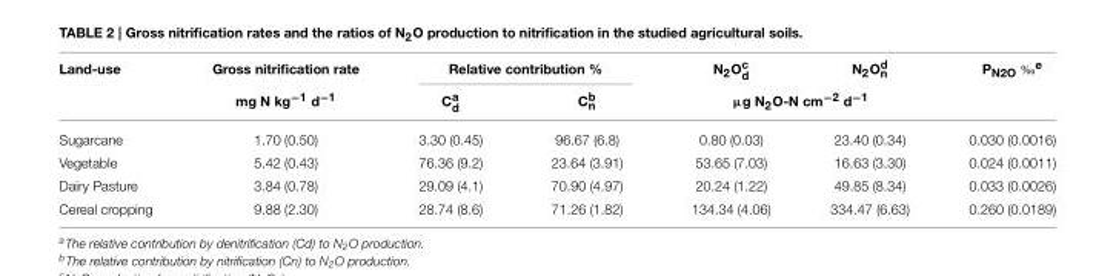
<table><thead><tr><td rowspan="2">Land-use</td><td rowspan="2">Gross nitrification rate mg N kg<sup>−1</sup> d<sup>−1</sup></td><td colspan="2">Relative contribution %</td><td>N<sub>2</sub>O<sup>c</sup> <sub>d</sub></td><td>N<sub>2</sub>O<sup>d</sup><sub>n</sub></td><td rowspan="2">P<sub>N2O</sub> ‰<sup>e</sup></td></tr><tr><td>C<sup>a</sup> <sub>d</sub></td><td>C<sup>b</sup><sub>n</sub></td><td colspan="2">µg N<sub>2</sub>O-N cm<sup>−2</sup> d<sup>−1</sup></td></tr></thead><tbody><tr><td>Sugarcane</td><td>1.70 (0.50)</td><td>3.30 (0.45)</td><td>96.67 (6.8)</td><td>0.80 (0.03)</td><td>23.40 (0.34)</td><td>0.030 (0.0016)</td></tr><tr><td>Vegetable</td><td>5.42 (0.43)</td><td>76.36 (9.2)</td><td>23.64 (3.91)</td><td>53.65 (7.03)</td><td>16.63 (3.30)</td><td>0.024 (0.0011)</td></tr><tr><td>Dairy Pasture</td><td>3.84 (0.78)</td><td>29.09 (4.1)</td><td>70.90 (4.97)</td><td>20.24 (1.22)</td><td>49.85 (8.34)</td><td>0.033 (0.0026)</td></tr><tr><td>Cereal cropping</td><td>9.88 (2.30)</td><td>28.74 (8.6)</td><td>71.26 (1.82)</td><td>134.34 (4.06)</td><td>334.47 (6.63)</td><td>0.260 (0.0189)</td></tr></tbody></table>